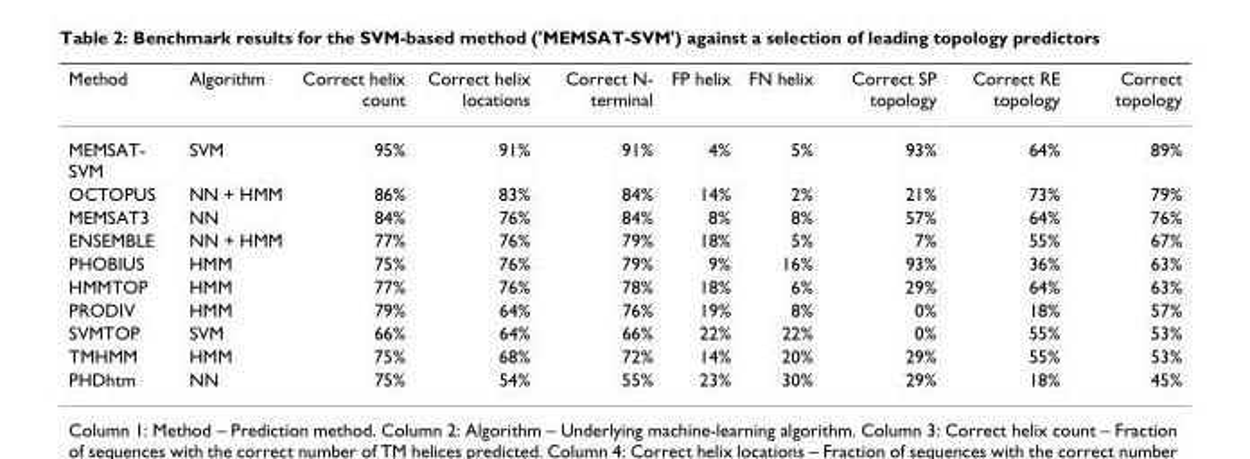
<table><thead><tr><td>Method</td><td>Algorithm</td><td>Correct helix count</td><td>Correct helix locations</td><td>Correct N- terminal</td><td>FP helix</td><td>FN helix</td><td>Correct SP topology</td><td>Correct RE topology</td><td>Correct topology</td></tr></thead><tbody><tr><td>MEMSAT- SVM</td><td>SVM</td><td>95%</td><td>91%</td><td>91%</td><td>4%</td><td>5%</td><td>93%</td><td>64%</td><td>89%</td></tr><tr><td>OCTOPUS</td><td>NN + HMM</td><td>86%</td><td>83%</td><td>84%</td><td>14%</td><td>2%</td><td>21%</td><td>73%</td><td>79%</td></tr><tr><td>MEMSAT3</td><td>NN</td><td>84%</td><td>76%</td><td>84%</td><td>8%</td><td>8%</td><td>57%</td><td>64%</td><td>76%</td></tr><tr><td>ENSEMBLE</td><td>NN + HMM</td><td>77%</td><td>76%</td><td>79%</td><td>18%</td><td>5%</td><td>7%</td><td>55%</td><td>67%</td></tr><tr><td>PHOBIUS</td><td>HMM</td><td>75%</td><td>76%</td><td>79%</td><td>9%</td><td>16%</td><td>93%</td><td>36%</td><td>63%</td></tr><tr><td>HMMTOP</td><td>HMM</td><td>77%</td><td>76%</td><td>78%</td><td>18%</td><td>6%</td><td>29%</td><td>64%</td><td>63%</td></tr><tr><td>PRODIV</td><td>HMM</td><td>79%</td><td>64%</td><td>76%</td><td>19%</td><td>8%</td><td>0%</td><td>18%</td><td>57%</td></tr><tr><td>SVMTOP</td><td>SVM</td><td>66%</td><td>64%</td><td>66%</td><td>22%</td><td>22%</td><td>0%</td><td>55%</td><td>53%</td></tr><tr><td>TMHMM</td><td>HMM</td><td>75%</td><td>68%</td><td>72%</td><td>14%</td><td>20%</td><td>29%</td><td>55%</td><td>53%</td></tr><tr><td>PHDhtm</td><td>NN</td><td>75%</td><td>54%</td><td>55%</td><td>23%</td><td>30%</td><td>29%</td><td>18%</td><td>45%</td></tr></tbody></table>